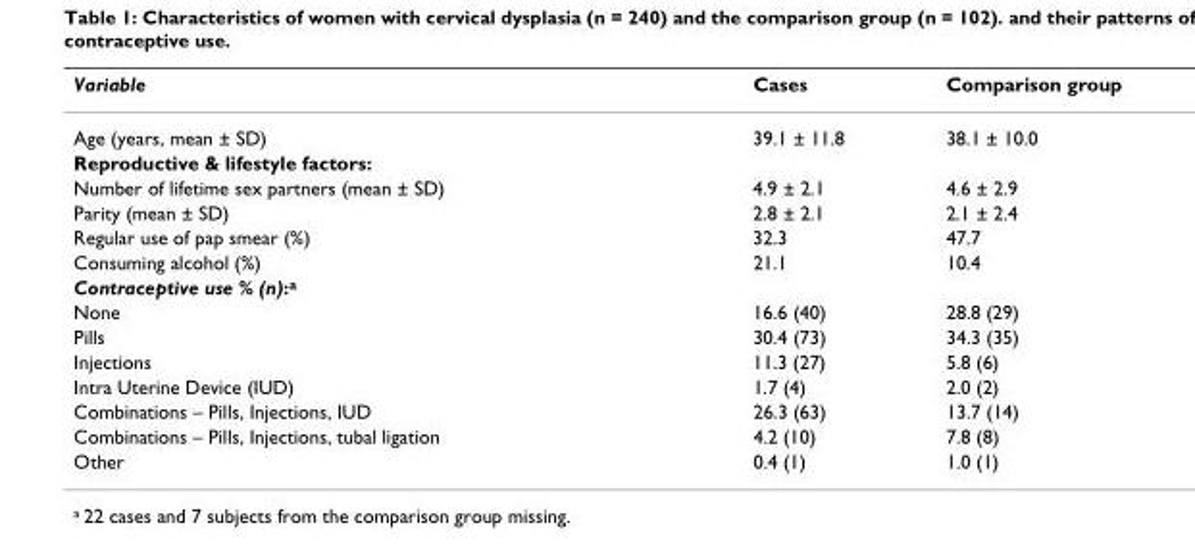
<table><thead><tr><td>Variable</td><td>Cases</td><td>Comparison group</td></tr></thead><tbody><tr><td>Age (years, mean ± SD)</td><td>39.1 ± 11.8</td><td>38.1 ± 10.0</td></tr><tr><td colspan="3">Reproductive &amp; lifestyle factors:</td></tr><tr><td>Number of lifetime sex partners (mean ± SD)</td><td>4.9 ± 2.1</td><td>4.6 ± 2.9</td></tr><tr><td>Parity (mean ± SD)</td><td>2.8 ± 2.1</td><td>2.1 ± 2.4</td></tr><tr><td>Regular use of pap smear (%)</td><td>32.3</td><td>47.7</td></tr><tr><td>Consuming alcohol (%)</td><td>21.1</td><td>10.4</td></tr><tr><td colspan="3">Contraceptive use % (n):<sup>a</sup></td></tr><tr><td>None</td><td>16.6 (40)</td><td>28.8 (29)</td></tr><tr><td>Pills</td><td>30.4 (73)</td><td>34.3 (35)</td></tr><tr><td>Injections</td><td>11.3 (27)</td><td>5.8 (6)</td></tr><tr><td>Intra Uterine Device (IUD)</td><td>1.7 (4)</td><td>2.0 (2)</td></tr><tr><td>Combinations – Pills, Injections, IUD</td><td>26.3 (63)</td><td>13.7 (14)</td></tr><tr><td>Combinations – Pills, Injections, tubal ligation</td><td>4.2 (10)</td><td>7.8 (8)</td></tr><tr><td>Other</td><td>0.4 (1)</td><td>1.0 (1)</td></tr></tbody></table>